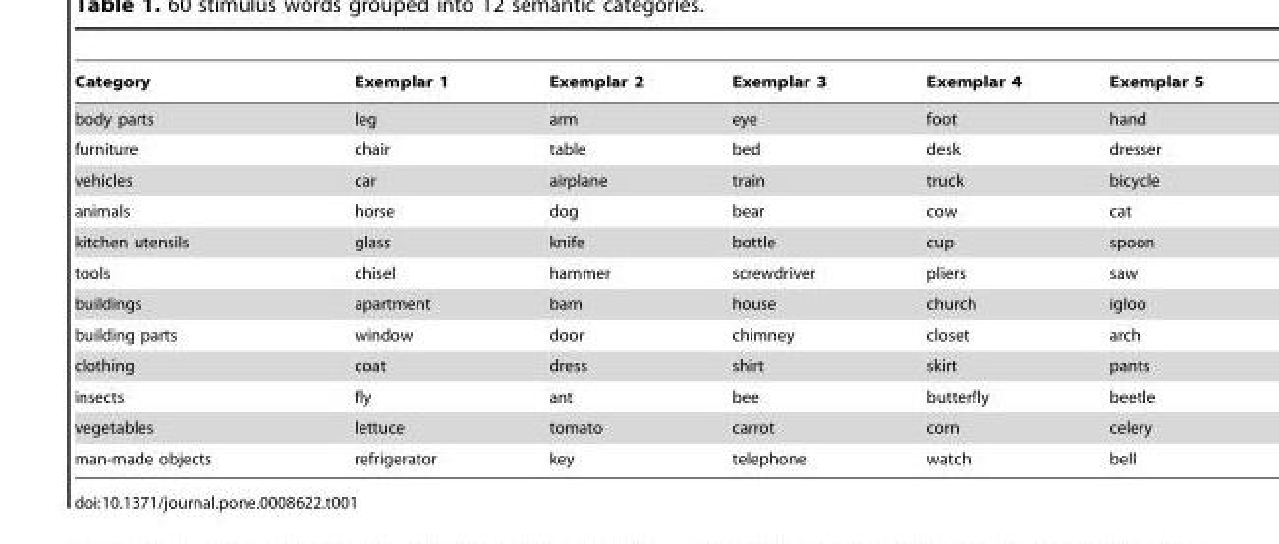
<table><thead><tr><td>Category</td><td>Exemplar 1</td><td>Exemplar 2</td><td>Exemplar 3</td><td>Exemplar 4</td><td>Exemplar 5</td></tr></thead><tbody><tr><td>body parts</td><td>leg</td><td>arm</td><td>eye</td><td>foot</td><td>hand</td></tr><tr><td>furniture</td><td>chair</td><td>table</td><td>bed</td><td>desk</td><td>dresser</td></tr><tr><td>vehicles</td><td>car</td><td>airplane</td><td>train</td><td>truck</td><td>bicycle</td></tr><tr><td>animals</td><td>horse</td><td>dog</td><td>bear</td><td>cow</td><td>cat</td></tr><tr><td>kitchen utensils</td><td>glass</td><td>knife</td><td>bottle</td><td>cup</td><td>spoon</td></tr><tr><td>tools</td><td>chisel</td><td>hammer</td><td>screwdriver</td><td>pliers</td><td>saw</td></tr><tr><td>buildings</td><td>apartment</td><td>barn</td><td>house</td><td>church</td><td>igloo</td></tr><tr><td>building parts</td><td>window</td><td>door</td><td>chimney</td><td>closet</td><td>arch</td></tr><tr><td>clothing</td><td>coat</td><td>dress</td><td>shirt</td><td>skirt</td><td>pants</td></tr><tr><td>insects</td><td>fly</td><td>ant</td><td>bee</td><td>butterfly</td><td>beetle</td></tr><tr><td>vegetables</td><td>lettuce</td><td>tomato</td><td>carrot</td><td>corn</td><td>celery</td></tr><tr><td>man-made objects</td><td>refrigerator</td><td>key</td><td>telephone</td><td>watch</td><td>bell</td></tr></tbody></table>